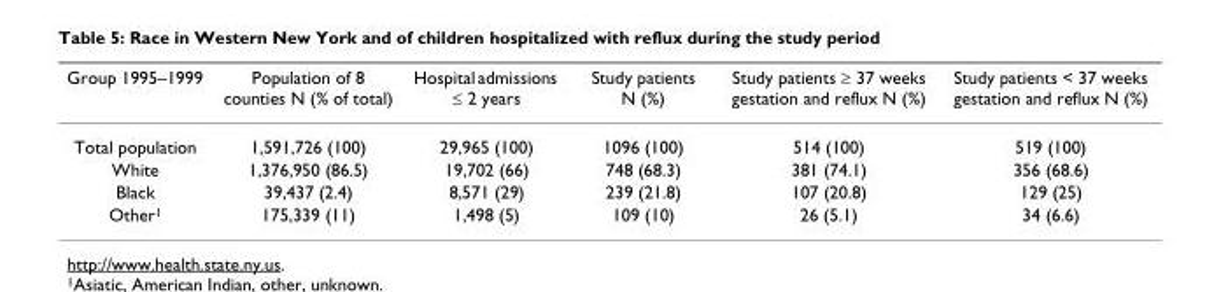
<table><thead><tr><td>Group 1995–1999</td><td>Population of 8 counties N (% of total)</td><td>Hospital admissions ≤ 2 years</td><td>Study patients N (%)</td><td>Study patients ≥ 37 weeks gestation and reflux N (%)</td><td>Study patients &lt; 37 weeks gestation and reflux N (%)</td></tr></thead><tbody><tr><td>Total population</td><td>1,591,726 (100)</td><td>29,965 (100)</td><td>1096 (100)</td><td>514 (100)</td><td>519 (100)</td></tr><tr><td>White</td><td>1,376,950 (86.5)</td><td>19,702 (66)</td><td>748 (68.3)</td><td>381 (74.1)</td><td>356 (68.6)</td></tr><tr><td>Black</td><td>39,437 (2.4)</td><td>8,571 (29)</td><td>239 (21.8)</td><td>107 (20.8)</td><td>129 (25)</td></tr><tr><td>Other<sup>1</sup></td><td>175,339 (11)</td><td>1,498 (5)</td><td>109 (10)</td><td>26 (5.1)</td><td>34 (6.6)</td></tr></tbody></table>